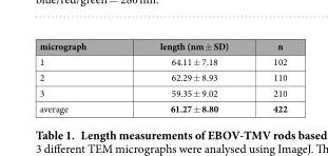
<table><thead><tr><td>micrograph</td><td>length (nm ± SD)</td><td>n</td></tr></thead><tbody><tr><td>1</td><td>64.11 ± 7.18</td><td>102</td></tr><tr><td>2</td><td>62.29 ± 8.93</td><td>110</td></tr><tr><td>3</td><td>59.35 ± 9.02</td><td>210</td></tr><tr><td>average</td><td>61.27 ± 8.80</td><td>422</td></tr></tbody></table>